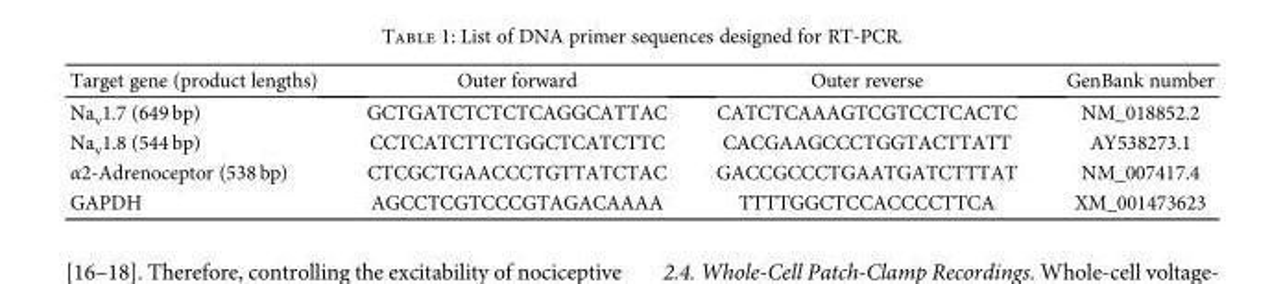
<table><thead><tr><td>Target gene (product lengths)</td><td>Outer forward</td><td>Outer reverse</td><td>GenBank number</td></tr></thead><tbody><tr><td>Na<sub>v</sub>1.7 (649 bp)</td><td>GCTGATCTCTCTCAGGCATTAC</td><td>CATCTCAAAGTCGTCCTCACTC</td><td>NM_018852.2</td></tr><tr><td>Na<sub>v</sub>1.8 (544 bp)</td><td>CCTCATCTTCTGGCTCATCTTC</td><td>CACGAAGCCCTGGTACTTATT</td><td>AY538273.1</td></tr><tr><td>α2-Adrenoceptor (538 bp)</td><td>CTCGCTGAACCCTGTTATCTAC</td><td>GACCGCCCTGAATGATCTTTAT</td><td>NM_007417.4</td></tr><tr><td>GAPDH</td><td>AGCCTCGTCCCGTAGACAAAA</td><td>TTTTGGCTCCACCCCTTCA</td><td>XM_001473623</td></tr></tbody></table>